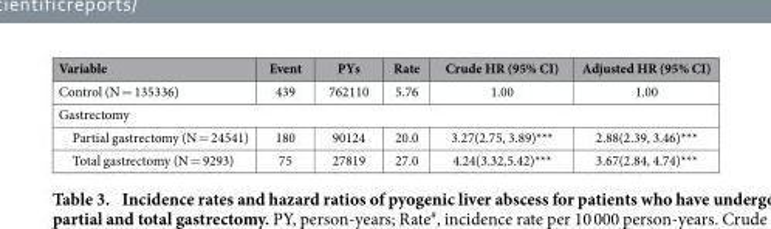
<table><thead><tr><td>Variable</td><td>Event</td><td>PYs</td><td>Rate</td><td>Crude HR (95% CI)</td><td>Adjusted HR (95% CI)</td></tr></thead><tbody><tr><td>Control (N = 135336)</td><td>439</td><td>762110</td><td>5.76</td><td>1.00</td><td>1.00</td></tr><tr><td colspan="6">Gastrectomy</td></tr><tr><td>Partial gastrectomy (N = 24541)</td><td>180</td><td>90124</td><td>20.0</td><td>3.27(2.75, 3.89)***</td><td>2.88(2.39, 3.46)***</td></tr><tr><td>Total gastrectomy (N = 9293)</td><td>75</td><td>27819</td><td>27.0</td><td>4.24(3.32,5.42)***</td><td>3.67(2.84, 4.74)***</td></tr></tbody></table>